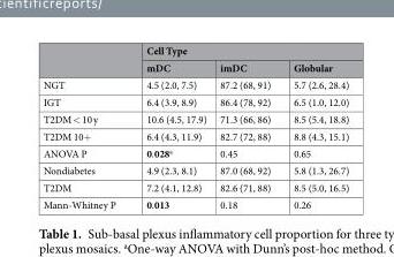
<table><thead><tr><td rowspan="2"></td><td colspan="3">Cell Type</td></tr><tr><td>mDC</td><td>imDC</td><td>Globular</td></tr></thead><tbody><tr><td>NGT</td><td>4.5 (2.0, 7.5)</td><td>87.2 (68, 91)</td><td>5.7 (2.6, 28.4)</td></tr><tr><td>IGT</td><td>6.4 (3.9, 8.9)</td><td>86.4 (78, 92)</td><td>6.5 (1.0, 12.0)</td></tr><tr><td>T2DM &lt; 10 y</td><td>10.6 (4.5, 17.9)</td><td>71.3 (66, 86)</td><td>8.5 (5.4, 18.8)</td></tr><tr><td>T2DM 10+</td><td>6.4 (4.3, 11.9)</td><td>82.7 (72, 88)</td><td>8.8 (4.3, 15.1)</td></tr><tr><td>ANOVA P</td><td>0.028<sup>a</sup></td><td>0.45</td><td>0.65</td></tr><tr><td>Nondiabetes</td><td>4.9 (2.3, 8.1)</td><td>87.0 (68, 92)</td><td>5.8 (1.3, 26.7)</td></tr><tr><td>T2DM</td><td>7.2 (4.1, 12.8)</td><td>82.6 (71, 88)</td><td>8.5 (5.0, 16.5)</td></tr><tr><td>Mann-Whitney P</td><td>0.013</td><td>0.18</td><td>0.26</td></tr></tbody></table>